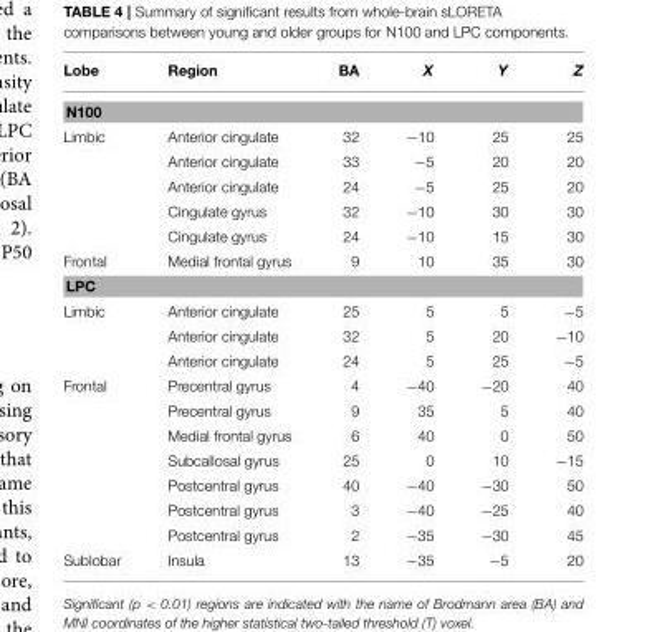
<table><thead><tr><td>Lobe</td><td>Region</td><td>BA</td><td>X</td><td>Y</td><td>Z</td></tr></thead><tbody><tr><td colspan="6">N100</td></tr><tr><td rowspan="5">Limbic</td><td>Anterior cingulate</td><td>32</td><td>−10</td><td>25</td><td>25</td></tr><tr><td>Anterior cingulate</td><td>33</td><td>−5</td><td>20</td><td>20</td></tr><tr><td>Anterior cingulate</td><td>24</td><td>−5</td><td>25</td><td>20</td></tr><tr><td>Cingulate gyrus</td><td>32</td><td>−10</td><td>30</td><td>30</td></tr><tr><td>Cingulate gyrus</td><td>24</td><td>−10</td><td>15</td><td>30</td></tr><tr><td>Frontal</td><td>Medial frontal gyrus</td><td>9</td><td>10</td><td>35</td><td>30</td></tr><tr><td colspan="6">LPC</td></tr><tr><td rowspan="3">Limbic</td><td>Anterior cingulate</td><td>25</td><td>5</td><td>5</td><td>−5</td></tr><tr><td>Anterior cingulate</td><td>32</td><td>5</td><td>20</td><td>−10</td></tr><tr><td>Anterior cingulate</td><td>24</td><td>5</td><td>25</td><td>−5</td></tr><tr><td rowspan="7">Frontal</td><td>Precentral gyrus</td><td>4</td><td>−40</td><td>−20</td><td>40</td></tr><tr><td>Precentral gyrus</td><td>9</td><td>35</td><td>5</td><td>40</td></tr><tr><td>Medial frontal gyrus</td><td>6</td><td>40</td><td>0</td><td>50</td></tr><tr><td>Subcallosal gyrus</td><td>25</td><td>0</td><td>10</td><td>−15</td></tr><tr><td>Postcentral gyrus</td><td>40</td><td>−40</td><td>−30</td><td>50</td></tr><tr><td>Postcentral gyrus</td><td>3</td><td>−40</td><td>−25</td><td>40</td></tr><tr><td>Postcentral gyrus</td><td>2</td><td>−35</td><td>−30</td><td>45</td></tr><tr><td>Sublobar</td><td>Insula</td><td>13</td><td>−35</td><td>−5</td><td>20</td></tr></tbody></table>